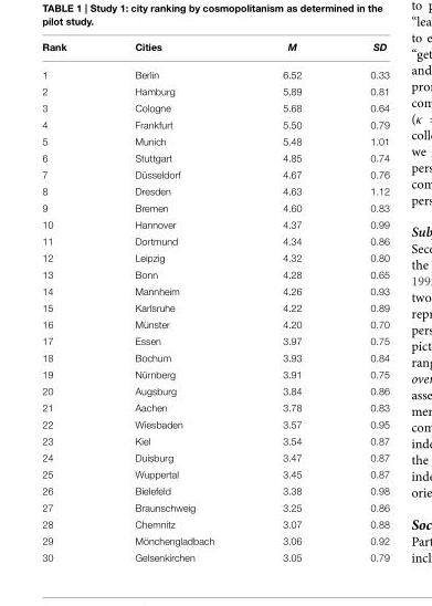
<table><thead><tr><td>Rank</td><td>Cities</td><td>M</td><td>SD</td></tr></thead><tbody><tr><td>1</td><td>Berlin</td><td>6.52</td><td>0.33</td></tr><tr><td>2</td><td>Hamburg</td><td>5.89</td><td>0.81</td></tr><tr><td>3</td><td>Cologne</td><td>5.68</td><td>0.64</td></tr><tr><td>4</td><td>Frankfurt</td><td>5.50</td><td>0.79</td></tr><tr><td>5</td><td>Munich</td><td>5.48</td><td>1.01</td></tr><tr><td>6</td><td>Stuttgart</td><td>4.85</td><td>0.74</td></tr><tr><td>7</td><td>Düsseldorf</td><td>4.67</td><td>0.76</td></tr><tr><td>8</td><td>Dresden</td><td>4.63</td><td>1.12</td></tr><tr><td>9</td><td>Bremen</td><td>4.60</td><td>0.83</td></tr><tr><td>10</td><td>Hannover</td><td>4.37</td><td>0.99</td></tr><tr><td>11</td><td>Dortmund</td><td>4.34</td><td>0.86</td></tr><tr><td>12</td><td>Leipzig</td><td>4.32</td><td>0.80</td></tr><tr><td>13</td><td>Bonn</td><td>4.28</td><td>0.65</td></tr><tr><td>14</td><td>Mannheim</td><td>4.26</td><td>0.93</td></tr><tr><td>15</td><td>Karlsruhe</td><td>4.22</td><td>0.89</td></tr><tr><td>16</td><td>Münster</td><td>4.20</td><td>0.70</td></tr><tr><td>17</td><td>Essen</td><td>3.97</td><td>0.75</td></tr><tr><td>18</td><td>Bochum</td><td>3.93</td><td>0.84</td></tr><tr><td>19</td><td>Nürnberg</td><td>3.91</td><td>0.75</td></tr><tr><td>20</td><td>Augsburg</td><td>3.84</td><td>0.86</td></tr><tr><td>21</td><td>Aachen</td><td>3.78</td><td>0.83</td></tr><tr><td>22</td><td>Wiesbaden</td><td>3.57</td><td>0.95</td></tr><tr><td>23</td><td>Kiel</td><td>3.54</td><td>0.87</td></tr><tr><td>24</td><td>Duisburg</td><td>3.47</td><td>0.87</td></tr><tr><td>25</td><td>Wuppertal</td><td>3.45</td><td>0.87</td></tr><tr><td>26</td><td>Bielefeld</td><td>3.38</td><td>0.98</td></tr><tr><td>27</td><td>Braunschweig</td><td>3.25</td><td>0.86</td></tr><tr><td>28</td><td>Chemnitz</td><td>3.07</td><td>0.88</td></tr><tr><td>29</td><td>Mönchengladbach</td><td>3.06</td><td>0.92</td></tr><tr><td>30</td><td>Gelsenkirchen</td><td>3.05</td><td>0.79</td></tr></tbody></table>